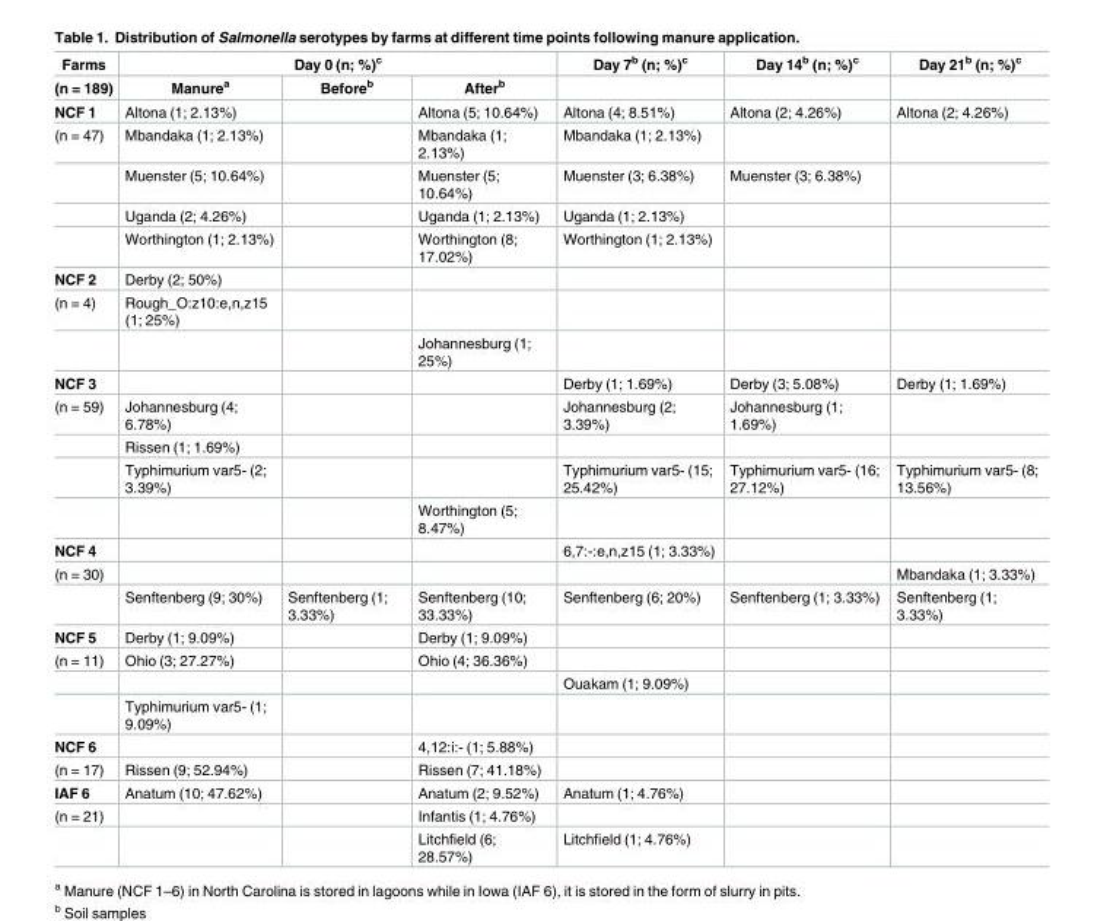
<table><thead><tr><td rowspan="2">Farms (n = 189)</td><td colspan="3">Day 0 (n; %)<sup>c</sup></td><td rowspan="2">Day 7<sup>b</sup> (n; %)<sup>c</sup></td><td rowspan="2">Day 14<sup>b</sup> (n; %)<sup>c</sup></td><td rowspan="2">Day 21<sup>b</sup> (n; %)<sup>c</sup></td></tr><tr><td>Manure<sup>a</sup></td><td>Before<sup>b</sup></td><td>After<sup>b</sup></td></tr></thead><tbody><tr><td>NCF 1</td><td>Altona (1; 2.13%)</td><td></td><td>Altona (5; 10.64%)</td><td>Altona (4; 8.51%)</td><td>Altona (2; 4.26%)</td><td>Altona (2; 4.26%)</td></tr><tr><td rowspan="4">(n = 47)</td><td>Mbandaka (1; 2.13%)</td><td></td><td>Mbandaka (1; 2.13%)</td><td>Mbandaka (1; 2.13%)</td><td></td><td></td></tr><tr><td>Muenster (5; 10.64%)</td><td></td><td>Muenster (5; 10.64%)</td><td>Muenster (3; 6.38%)</td><td>Muenster (3; 6.38%)</td><td></td></tr><tr><td>Uganda (2; 4.26%)</td><td></td><td>Uganda (1; 2.13%)</td><td>Uganda (1; 2.13%)</td><td></td><td></td></tr><tr><td>Worthington (1; 2.13%)</td><td></td><td>Worthington (8; 17.02%)</td><td>Worthington (1; 2.13%)</td><td></td><td></td></tr><tr><td>NCF 2</td><td>Derby (2; 50%)</td><td></td><td></td><td></td><td></td><td></td></tr><tr><td rowspan="2">(n = 4)</td><td>Rough_O:z10:e,n,z15 (1; 25%)</td><td></td><td></td><td></td><td></td><td></td></tr><tr><td></td><td></td><td>Johannesburg (1; 25%)</td><td></td><td></td><td></td></tr><tr><td>NCF 3</td><td></td><td></td><td></td><td>Derby (1; 1.69%)</td><td>Derby (3; 5.08%)</td><td>Derby (1; 1.69%)</td></tr><tr><td rowspan="4">(n = 59)</td><td>Johannesburg (4; 6.78%)</td><td></td><td></td><td>Johannesburg (2; 3.39%)</td><td>Johannesburg (1; 1.69%)</td><td></td></tr><tr><td>Rissen (1; 1.69%)</td><td></td><td></td><td></td><td></td><td></td></tr><tr><td>Typhimurium var5- (2; 3.39%)</td><td></td><td></td><td>Typhimurium var5- (15; 25.42%)</td><td>Typhimurium var5- (16; 27.12%)</td><td>Typhimurium var5- (8; 13.56%)</td></tr><tr><td></td><td></td><td>Worthington (5; 8.47%)</td><td></td><td></td><td></td></tr><tr><td>NCF 4</td><td></td><td></td><td></td><td>6,7:-:e,n,z15 (1; 3.33%)</td><td></td><td></td></tr><tr><td rowspan="2">(n = 30)</td><td></td><td></td><td></td><td></td><td></td><td>Mbandaka (1; 3.33%)</td></tr><tr><td>Senftenberg (9; 30%)</td><td>Senftenberg (1; 3.33%)</td><td>Senftenberg (10; 33.33%)</td><td>Senftenberg (6; 20%)</td><td>Senftenberg (1; 3.33%)</td><td>Senftenberg (1; 3.33%)</td></tr><tr><td>NCF 5</td><td>Derby (1; 9.09%)</td><td></td><td>Derby (1; 9.09%)</td><td></td><td></td><td></td></tr><tr><td rowspan="3">(n = 11)</td><td>Ohio (3; 27.27%)</td><td></td><td>Ohio (4; 36.36%)</td><td></td><td></td><td></td></tr><tr><td></td><td></td><td></td><td>Ouakam (1; 9.09%)</td><td></td><td></td></tr><tr><td>Typhimurium var5- (1; 9.09%)</td><td></td><td></td><td></td><td></td><td></td></tr><tr><td>NCF 6</td><td></td><td></td><td>4,12:i:- (1; 5.88%)</td><td></td><td></td><td></td></tr><tr><td>(n = 17)</td><td>Rissen (9; 52.94%)</td><td></td><td>Rissen (7; 41.18%)</td><td></td><td></td><td></td></tr><tr><td>IAF 6</td><td>Anatum (10; 47.62%)</td><td></td><td>Anatum (2; 9.52%)</td><td>Anatum (1; 4.76%)</td><td></td><td></td></tr><tr><td rowspan="2">(n = 21)</td><td></td><td></td><td>Infantis (1; 4.76%)</td><td></td><td></td><td></td></tr><tr><td></td><td></td><td>Litchfield (6; 28.57%)</td><td>Litchfield (1; 4.76%)</td><td></td><td></td></tr></tbody></table>